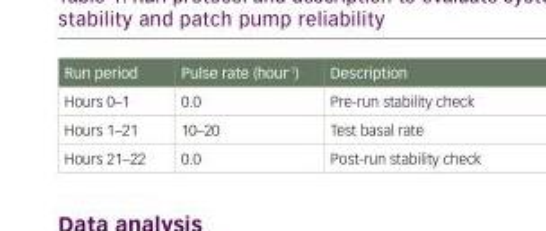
<table><thead><tr><td>Run period</td><td>Pulse rate (hour-<sup>1</sup>)</td><td>Description</td></tr></thead><tbody><tr><td>Hours 0–1</td><td>0.0</td><td>Pre-run stability check</td></tr><tr><td>Hours 1–21</td><td>10–20</td><td>Test basal rate</td></tr><tr><td>Hours 21–22</td><td>0.0</td><td>Post-run stability check</td></tr></tbody></table>